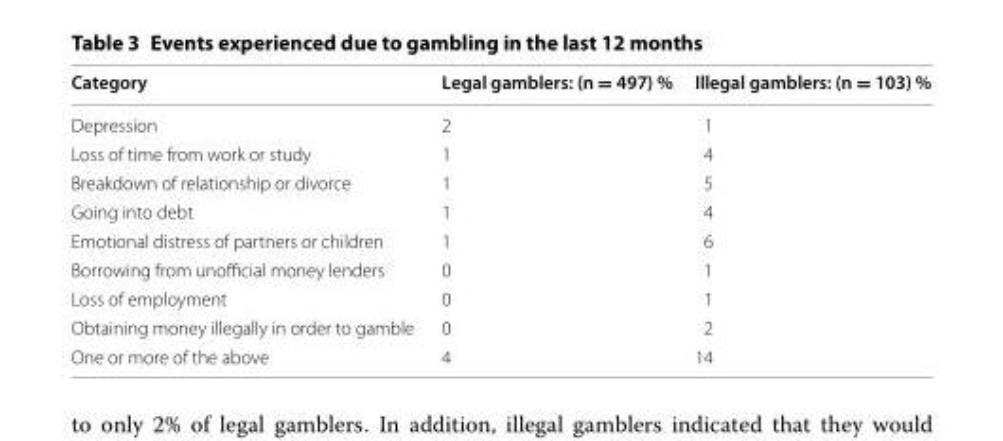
<table><thead><tr><td>Category</td><td>Legal gamblers: (n = 497) %</td><td>Illegal gamblers: (n = 103) %</td></tr></thead><tbody><tr><td>Depression</td><td>2</td><td>1</td></tr><tr><td>Loss of time from work or study</td><td>1</td><td>4</td></tr><tr><td>Breakdown of relationship or divorce</td><td>1</td><td>5</td></tr><tr><td>Going into debt</td><td>1</td><td>4</td></tr><tr><td>Emotional distress of partners or children</td><td>1</td><td>6</td></tr><tr><td>Borrowing from unofficial money lenders</td><td>0</td><td>1</td></tr><tr><td>Loss of employment</td><td>0</td><td>1</td></tr><tr><td>Obtaining money illegally in order to gamble</td><td>0</td><td>2</td></tr><tr><td>One or more of the above</td><td>4</td><td>14</td></tr></tbody></table>